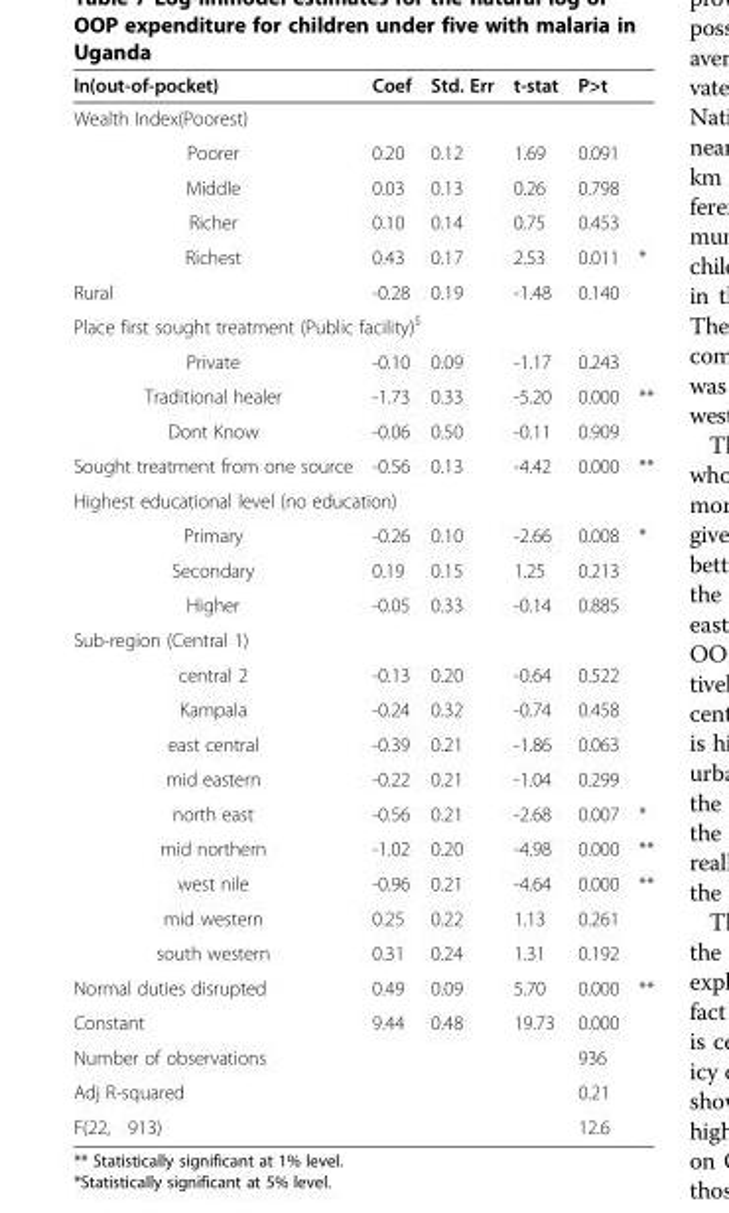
<table><thead><tr><td>ln(out-of-pocket)</td><td>Coef</td><td>Std. Err</td><td>t-stat</td><td>P&gt;t</td><td></td></tr></thead><tbody><tr><td colspan="6">Wealth Index(Poorest)</td></tr><tr><td>Poorer</td><td>0.20</td><td>0.12</td><td>1.69</td><td>0.091</td><td></td></tr><tr><td>Middle</td><td>0.03</td><td>0.13</td><td>0.26</td><td>0.798</td><td></td></tr><tr><td>Richer</td><td>0.10</td><td>0.14</td><td>0.75</td><td>0.453</td><td></td></tr><tr><td>Richest</td><td>0.43</td><td>0.17</td><td>2.53</td><td>0.011</td><td>*</td></tr><tr><td>Rural</td><td>-0.28</td><td>0.19</td><td>-1.48</td><td>0.140</td><td></td></tr><tr><td colspan="6">Place first sought treatment (Public facility)<sup>$</sup></td></tr><tr><td>Private</td><td>-0.10</td><td>0.09</td><td>-1.17</td><td>0.243</td><td></td></tr><tr><td>Traditional healer</td><td>-1.73</td><td>0.33</td><td>-5.20</td><td>0.000</td><td>**</td></tr><tr><td>Dont Know</td><td>-0.06</td><td>0.50</td><td>-0.11</td><td>0.909</td><td></td></tr><tr><td>Sought treatment from one source</td><td>-0.56</td><td>0.13</td><td>-4.42</td><td>0.000</td><td>**</td></tr><tr><td colspan="6">Highest educational level (no education)</td></tr><tr><td>Primary</td><td>-0.26</td><td>0.10</td><td>-2.66</td><td>0.008</td><td>*</td></tr><tr><td>Secondary</td><td>0.19</td><td>0.15</td><td>1.25</td><td>0.213</td><td></td></tr><tr><td>Higher</td><td>-0.05</td><td>0.33</td><td>-0.14</td><td>0.885</td><td></td></tr><tr><td colspan="6">Sub-region (Central 1)</td></tr><tr><td>central 2</td><td>-0.13</td><td>0.20</td><td>-0.64</td><td>0.522</td><td></td></tr><tr><td>Kampala</td><td>-0.24</td><td>0.32</td><td>-0.74</td><td>0.458</td><td></td></tr><tr><td>east central</td><td>-0.39</td><td>0.21</td><td>-1.86</td><td>0.063</td><td></td></tr><tr><td>mid eastern</td><td>-0.22</td><td>0.21</td><td>-1.04</td><td>0.299</td><td></td></tr><tr><td>north east</td><td>-0.56</td><td>0.21</td><td>-2.68</td><td>0.007</td><td>*</td></tr><tr><td>mid northern</td><td>-1.02</td><td>0.20</td><td>-4.98</td><td>0.000</td><td>**</td></tr><tr><td>west nile</td><td>-0.96</td><td>0.21</td><td>-4.64</td><td>0.000</td><td>**</td></tr><tr><td>mid western</td><td>0.25</td><td>0.22</td><td>1.13</td><td>0.261</td><td></td></tr><tr><td>south western</td><td>0.31</td><td>0.24</td><td>1.31</td><td>0.192</td><td></td></tr><tr><td>Normal duties disrupted</td><td>0.49</td><td>0.09</td><td>5.70</td><td>0.000</td><td>**</td></tr><tr><td>Constant</td><td>9.44</td><td>0.48</td><td>19.73</td><td>0.000</td><td></td></tr><tr><td>Number of observations</td><td></td><td></td><td></td><td>936</td><td></td></tr><tr><td>Adj R-squared</td><td></td><td></td><td></td><td>0.21</td><td></td></tr><tr><td>F(22, 913)</td><td></td><td></td><td></td><td>12.6</td><td></td></tr></tbody></table>